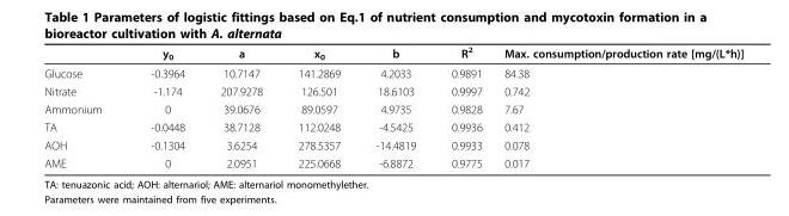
<table><thead><tr><td></td><td>y<sub>0</sub></td><td>a</td><td>x<sub>0</sub></td><td>b</td><td>R<sup>2</sup></td><td>Max. consumption/production rate [mg/(L*h)]</td></tr></thead><tbody><tr><td>Glucose</td><td>-0.3964</td><td>10.7147</td><td>141.2869</td><td>4.2033</td><td>0.9891</td><td>84.38</td></tr><tr><td>Nitrate</td><td>-1.174</td><td>207.9278</td><td>126.501</td><td>18.6103</td><td>0.9997</td><td>0.742</td></tr><tr><td>Ammonium</td><td>0</td><td>39.0676</td><td>89.0597</td><td>4.9735</td><td>0.9828</td><td>7.67</td></tr><tr><td>TA</td><td>-0.0448</td><td>38.7128</td><td>112.0248</td><td>-4.5425</td><td>0.9936</td><td>0.412</td></tr><tr><td>AOH</td><td>-0.1304</td><td>3.6254</td><td>278.5357</td><td>-14.4819</td><td>0.9933</td><td>0.078</td></tr><tr><td>AME</td><td>0</td><td>2.0951</td><td>225.0668</td><td>-6.8872</td><td>0.9775</td><td>0.017</td></tr></tbody></table>